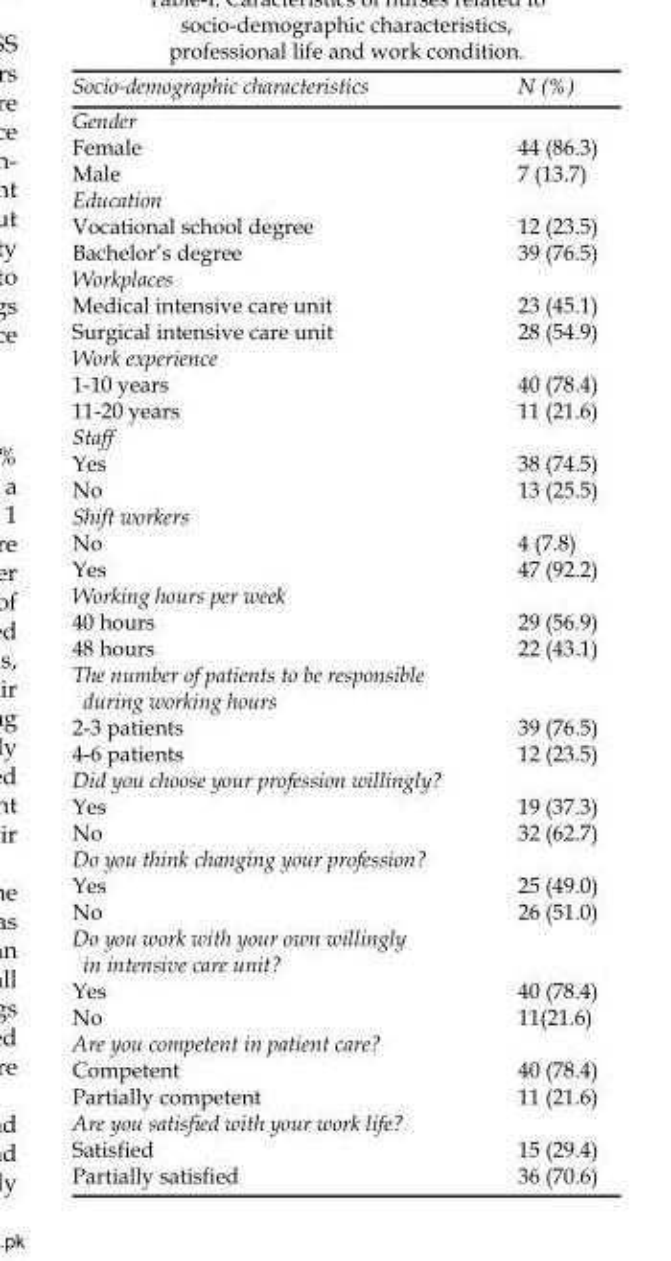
<table><thead><tr><td>Socio-demographic characteristics</td><td>N (%)</td></tr></thead><tbody><tr><td colspan="2">Gender</td></tr><tr><td>Female</td><td>44 (86.3)</td></tr><tr><td>Male</td><td>7 (13.7)</td></tr><tr><td colspan="2">Education</td></tr><tr><td>Vocational school degree</td><td>12 (23.5)</td></tr><tr><td>Bachelor’s degree</td><td>39 (76.5)</td></tr><tr><td colspan="2">Workplaces</td></tr><tr><td>Medical intensive care unit</td><td>23 (45.1)</td></tr><tr><td>Surgical intensive care unit</td><td>28 (54.9)</td></tr><tr><td colspan="2">Work experience</td></tr><tr><td>1-10 years</td><td>40 (78.4)</td></tr><tr><td>11-20 years</td><td>11 (21.6)</td></tr><tr><td colspan="2">Staff</td></tr><tr><td>Yes</td><td>38 (74.5)</td></tr><tr><td>No</td><td>13 (25.5)</td></tr><tr><td colspan="2">Shift workers</td></tr><tr><td>No</td><td>4 (7.8)</td></tr><tr><td>Yes</td><td>47 (92.2)</td></tr><tr><td colspan="2">Working hours per week</td></tr><tr><td>40 hours</td><td>29 (56.9)</td></tr><tr><td>48 hours</td><td>22 (43.1)</td></tr><tr><td colspan="2">The number of patients to be responsible during working hours</td></tr><tr><td>2-3 patients</td><td>39 (76.5)</td></tr><tr><td>4-6 patients</td><td>12 (23.5)</td></tr><tr><td colspan="2">Did you choose your profession willingly?</td></tr><tr><td>Yes</td><td>19 (37.3)</td></tr><tr><td>No</td><td>32 (62.7)</td></tr><tr><td colspan="2">Do you think changing your profession?</td></tr><tr><td>Yes</td><td>25 (49.0)</td></tr><tr><td>No</td><td>26 (51.0)</td></tr><tr><td colspan="2">Do you work with your own willingly in intensive care unit?</td></tr><tr><td>Yes</td><td>40 (78.4)</td></tr><tr><td>No</td><td>11(21.6)</td></tr><tr><td colspan="2">Are you competent in patient care?</td></tr><tr><td>Competent</td><td>40 (78.4)</td></tr><tr><td>Partially competent</td><td>11 (21.6)</td></tr><tr><td colspan="2">Are you satisfied with your work life?</td></tr><tr><td>Satisfied</td><td>15 (29.4)</td></tr><tr><td>Partially satisfied</td><td>36 (70.6)</td></tr></tbody></table>